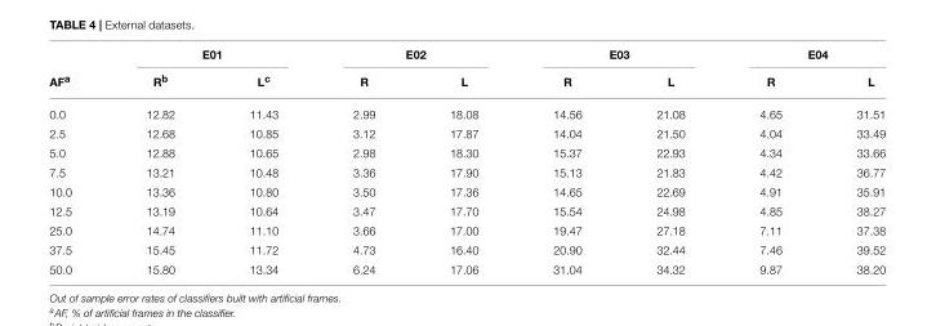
<table><thead><tr><td rowspan="2">AF<sup>a</sup></td><td colspan="2">E01</td><td colspan="2">E02</td><td colspan="2">E03</td><td colspan="2">E04</td></tr><tr><td>R<sup>b</sup></td><td>L<sup>c</sup></td><td>R</td><td>L</td><td>R</td><td>L</td><td>R</td><td>L</td></tr></thead><tbody><tr><td>0.0</td><td>12.82</td><td>11.43</td><td>2.99</td><td>18.08</td><td>14.56</td><td>21.08</td><td>4.65</td><td>31.51</td></tr><tr><td>2.5</td><td>12.68</td><td>10.85</td><td>3.12</td><td>17.87</td><td>14.04</td><td>21.50</td><td>4.04</td><td>33.49</td></tr><tr><td>5.0</td><td>12.88</td><td>10.65</td><td>2.98</td><td>18.30</td><td>15.37</td><td>22.93</td><td>4.34</td><td>33.66</td></tr><tr><td>7.5</td><td>13.21</td><td>10.48</td><td>3.36</td><td>17.90</td><td>15.13</td><td>21.83</td><td>4.42</td><td>36.77</td></tr><tr><td>10.0</td><td>13.36</td><td>10.80</td><td>3.50</td><td>17.36</td><td>14.65</td><td>22.69</td><td>4.91</td><td>35.91</td></tr><tr><td>12.5</td><td>13.19</td><td>10.64</td><td>3.47</td><td>17.70</td><td>15.54</td><td>24.98</td><td>4.85</td><td>38.27</td></tr><tr><td>25.0</td><td>14.74</td><td>11.10</td><td>3.66</td><td>17.00</td><td>19.47</td><td>27.18</td><td>7.11</td><td>37.38</td></tr><tr><td>37.5</td><td>15.45</td><td>11.72</td><td>4.73</td><td>16.40</td><td>20.90</td><td>32.44</td><td>7.46</td><td>39.52</td></tr><tr><td>50.0</td><td>15.80</td><td>13.34</td><td>6.24</td><td>17.06</td><td>31.04</td><td>34.32</td><td>9.87</td><td>38.20</td></tr></tbody></table>